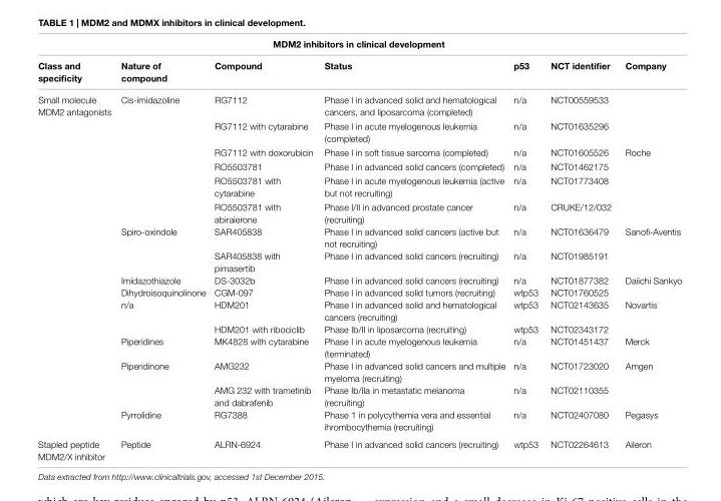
<table><thead><tr><td colspan="7">MDM2 inhibitors in clinical development</td></tr><tr><td>Class and specificity</td><td>nature of compound</td><td>Compound</td><td>Status</td><td>p53</td><td>nCT identifier</td><td>Company</td></tr></thead><tbody><tr><td rowspan="16">Small molecule MDM2 antagonists</td><td>Cis-imidazoline</td><td>RG7112</td><td>Phase I in advanced solid and hematological cancers, and liposarcoma (completed)</td><td>n/a</td><td>NCT00559533</td><td></td></tr><tr><td></td><td>RG7112 with cytarabine</td><td>Phase I in acute myelogenous leukemia (completed)</td><td>n/a</td><td>NCT01635296</td><td></td></tr><tr><td></td><td>RG7112 with doxorubicin</td><td>Phase I in soft tissue sarcoma (completed)</td><td>n/a</td><td>NCT01605526</td><td>Roche</td></tr><tr><td></td><td>RO5503781</td><td>Phase I in advanced solid cancers (completed)</td><td>n/a</td><td>NCT01462175</td><td></td></tr><tr><td></td><td>RO5503781 with cytarabine</td><td>Phase I in acute myelogenous leukemia (active but not recruiting)</td><td>n/a</td><td>NCT01773408</td><td></td></tr><tr><td></td><td>RO5503781 with abiraierone</td><td>Phase I/II in advanced prostate cancer (recruiting)</td><td>n/a</td><td>CRUKE/12/032</td><td></td></tr><tr><td>Spiro-oxindole</td><td>SAR405838</td><td>Phase I in advanced solid cancers (active but not recruiting)</td><td>n/a</td><td>NCT01636479</td><td>Sanofi-Aventis</td></tr><tr><td></td><td>SAR405838 with pimasertib</td><td>Phase I in advanced solid cancers (recruiting)</td><td>n/a</td><td>NCT01985191</td><td></td></tr><tr><td>Imidazothiazole</td><td>DS-3032b</td><td>Phase I in advanced solid cancers (recruiting)</td><td>n/a</td><td>NCT01877382</td><td>Daiichi Sankyo</td></tr><tr><td>Dihydroisoquinolinone</td><td>CGM-097</td><td>Phase I in advanced solid tumors (recruiting)</td><td>wtp53</td><td>NCT01760525</td><td></td></tr><tr><td>n/a</td><td>HDM201</td><td>Phase I in advanced solid and hematological cancers (recruiting)</td><td>wtp53</td><td>NCT02143635</td><td>Novartis</td></tr><tr><td></td><td>HDM201 with ribociclib</td><td>Phase Ib/II in liposarcoma (recruiting)</td><td>wtp53</td><td>NCT02343172</td><td></td></tr><tr><td>Piperidines</td><td>MK4828 with cytarabine</td><td>Phase I in acute myelogenous leukemia (terminated)</td><td>n/a</td><td>NCT01451437</td><td>Merck</td></tr><tr><td>Piperidinone</td><td>AMG232</td><td>Phase I in advanced solid cancers and multiple myeloma (recruiting)</td><td>n/a</td><td>NCT01723020</td><td>Amgen</td></tr><tr><td></td><td>AMG 232 with trametinib and dabrafenib</td><td>Phase Ib/IIa in metastatic melanoma (recruiting)</td><td>n/a</td><td>NCT02110355</td><td></td></tr><tr><td>Pyrrolidine</td><td>RG7388</td><td>Phase 1 in polycythemia vera and essential ihrombocythemia (recruiting)</td><td>n/a</td><td>NCT02407080</td><td>Pegasys</td></tr><tr><td>Stapled peptide MDM2/X inhibitor</td><td>Peptide</td><td>ALRN-6924</td><td>Phase I in advanced solid cancers (recruiting)</td><td>wtp53</td><td>NCT02264613</td><td>Aileron</td></tr></tbody></table>